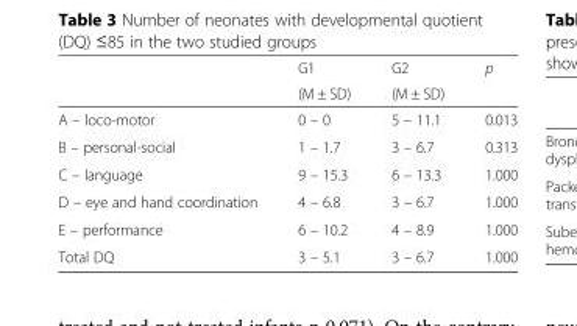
<table><thead><tr><td rowspan="2"></td><td rowspan="2">G1 (M ± SD)</td><td rowspan="2">G2 (M ± SD)</td><td rowspan="2">p</td></tr><tr></tr></thead><tbody><tr><td>A – loco-motor</td><td>0 – 0</td><td>5 – 11.1</td><td>0.013</td></tr><tr><td>B – personal-social</td><td>1 – 1.7</td><td>3 – 6.7</td><td>0.313</td></tr><tr><td>C – language</td><td>9 – 15.3</td><td>6 – 13.3</td><td>1.000</td></tr><tr><td>D – eye and hand coordination</td><td>4 – 6.8</td><td>3 – 6.7</td><td>1.000</td></tr><tr><td>E – performance</td><td>6 – 10.2</td><td>4 – 8.9</td><td>1.000</td></tr><tr><td>Total DQ</td><td>3 – 5.1</td><td>3 – 6.7</td><td>1.000</td></tr></tbody></table>